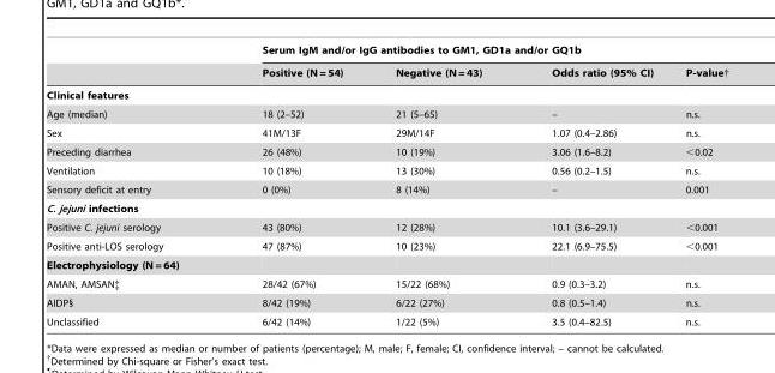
<table><thead><tr><td rowspan="2"></td><td colspan="4">Serum IgM and/or IgG antibodies to GM1, GD1a and/or GQ1b</td></tr><tr><td>Positive (N = 54)</td><td>Negative (N = 43)</td><td>Odds ratio (95% CI)</td><td>P-value†</td></tr></thead><tbody><tr><td colspan="5">Clinical features</td></tr><tr><td>Age (median)</td><td>18 (2–52)</td><td>21 (5–65)</td><td>–</td><td>n.s.</td></tr><tr><td>Sex</td><td>41M/13F</td><td>29M/14F</td><td>1.07 (0.4–2.86)</td><td>n.s.</td></tr><tr><td>Preceding diarrhea</td><td>26 (48%)</td><td>10 (19%)</td><td>3.06 (1.6–8.2)</td><td>&lt;0.02</td></tr><tr><td>Ventilation</td><td>10 (18%)</td><td>13 (30%)</td><td>0.56 (0.2–1.5)</td><td>n.s.</td></tr><tr><td>Sensory deficit at entry</td><td>0 (0%)</td><td>8 (14%)</td><td>–</td><td>0.001</td></tr><tr><td colspan="5">C. jejuni infections</td></tr><tr><td>Positive C. jejuni serology</td><td>43 (80%)</td><td>12 (28%)</td><td>10.1 (3.6–29.1)</td><td>&lt;0.001</td></tr><tr><td>Positive anti-LOS serology</td><td>47 (87%)</td><td>10 (23%)</td><td>22.1 (6.9–75.5)</td><td>&lt;0.001</td></tr><tr><td colspan="5">Electrophysiology (N = 64)</td></tr><tr><td>AMAN, AMSAN‡</td><td>28/42 (67%)</td><td>15/22 (68%)</td><td>0.9 (0.3–3.2)</td><td>n.s.</td></tr><tr><td>AIDP§</td><td>8/42 (19%)</td><td>6/22 (27%)</td><td>0.8 (0.5–1.4)</td><td>n.s.</td></tr><tr><td>Unclassified</td><td>6/42 (14%)</td><td>1/22 (5%)</td><td>3.5 (0.4–82.5)</td><td>n.s.</td></tr></tbody></table>